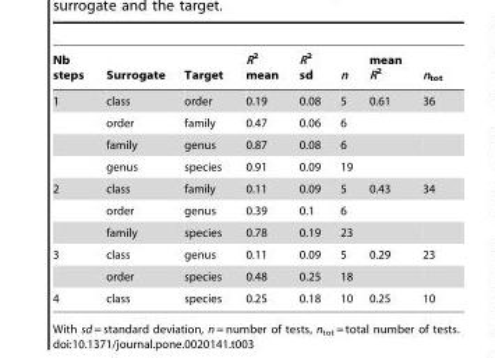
<table><thead><tr><td>Nb steps</td><td>Surrogate</td><td>Target</td><td>R<sup>2</sup> mean</td><td>R<sup>2</sup> sd</td><td>n</td><td>mean R<sup>2</sup></td><td>n<sub>tot</sub></td></tr></thead><tbody><tr><td rowspan="4">1</td><td>class</td><td>order</td><td>0.19</td><td>0.08</td><td>5</td><td>0.61</td><td>36</td></tr><tr><td>order</td><td>family</td><td>0.47</td><td>0.06</td><td>6</td><td></td><td></td></tr><tr><td>family</td><td>genus</td><td>0.87</td><td>0.08</td><td>6</td><td></td><td></td></tr><tr><td>genus</td><td>species</td><td>0.91</td><td>0.09</td><td>19</td><td></td><td></td></tr><tr><td rowspan="3">2</td><td>class</td><td>family</td><td>0.11</td><td>0.09</td><td>5</td><td>0.43</td><td>34</td></tr><tr><td>order</td><td>genus</td><td>0.39</td><td>0.1</td><td>6</td><td></td><td></td></tr><tr><td>family</td><td>species</td><td>0.78</td><td>0.19</td><td>23</td><td></td><td></td></tr><tr><td rowspan="2">3</td><td>class</td><td>genus</td><td>0.11</td><td>0.09</td><td>5</td><td>0.29</td><td>23</td></tr><tr><td>order</td><td>species</td><td>0.48</td><td>0.25</td><td>18</td><td></td><td></td></tr><tr><td>4</td><td>class</td><td>species</td><td>0.25</td><td>0.18</td><td>10</td><td>0.25</td><td>10</td></tr></tbody></table>